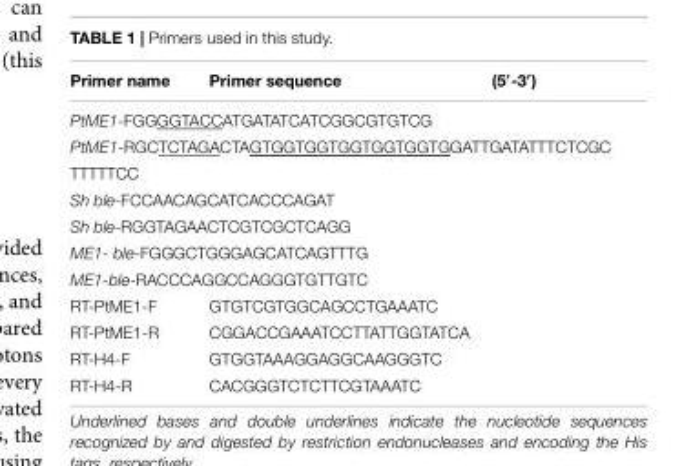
<table><thead><tr><td>Primer name</td><td>Primer sequence</td><td>(5′-3′)</td></tr></thead><tbody><tr><td colspan="3">PtME1-FGGGGTACCATGATATCATCGGCGTGTCG</td></tr><tr><td colspan="3">PtME1-RGCTCTAGACTAGTGGTGGTGGTGGTGGTGGATTGATATTTCTCGC</td></tr><tr><td colspan="3">TTTTTCC</td></tr><tr><td colspan="3">Sh ble-FCCAACAGCATCACCCAGAT</td></tr><tr><td colspan="3">Sh ble-RGGTAGAACTCGTCGCTCAGG</td></tr><tr><td colspan="3">ME1- ble-FGGGCTGGGAGCATCAGTTTG</td></tr><tr><td colspan="3">ME1-ble-RACCCAGGCCAGGGTGTTGTC</td></tr><tr><td>RT-PtME1-F</td><td colspan="2">GTGTCGTGGCAGCCTGAAATC</td></tr><tr><td>RT-PtME1-R</td><td colspan="2">CGGACCGAAATCCTTATTGGTATCA</td></tr><tr><td>RT-H4-F</td><td colspan="2">GTGGTAAAGGAGGCAAGGGTC</td></tr><tr><td>RT-H4-R</td><td colspan="2">CACGGGTCTCTTCGTAAATC</td></tr></tbody></table>